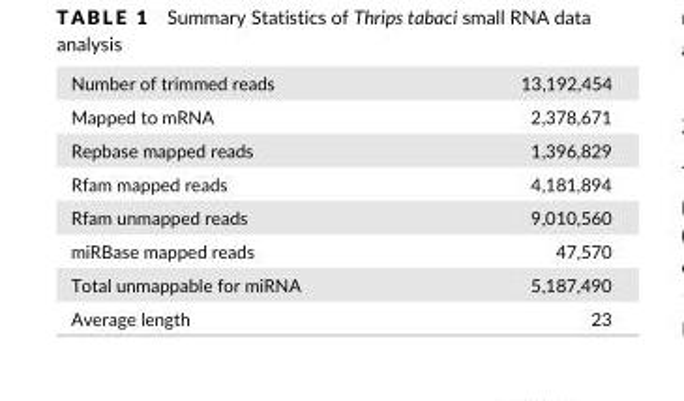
<table><tbody><tr><td>Number of trimmed reads</td><td>13,192,454</td></tr><tr><td>Mapped to mRNA</td><td>2,378,671</td></tr><tr><td>Repbase mapped reads</td><td>1,396,829</td></tr><tr><td>Rfam mapped reads</td><td>4,181,894</td></tr><tr><td>Rfam unmapped reads</td><td>9,010,560</td></tr><tr><td>miRBase mapped reads</td><td>47,570</td></tr><tr><td>Total unmappable for miRNA</td><td>5,187,490</td></tr><tr><td>Average length</td><td>23</td></tr></tbody></table>